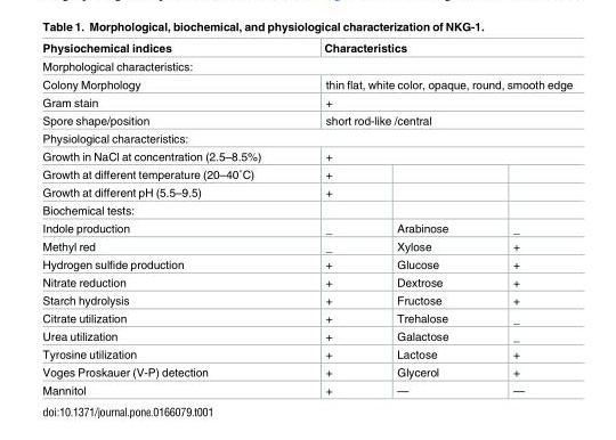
<table><thead><tr><td>Physiochemical indices</td><td colspan="3">Characteristics</td></tr></thead><tbody><tr><td colspan="4">Morphological characteristics:</td></tr><tr><td>Colony Morphology</td><td colspan="3">thin flat, white color, opaque, round, smooth edge</td></tr><tr><td>Gram stain</td><td colspan="3">+</td></tr><tr><td>Spore shape/position</td><td colspan="3">short rod-like /central</td></tr><tr><td colspan="4">Physiological characteristics:</td></tr><tr><td>Growth in NaCl at concentration (2.5–8.5%)</td><td colspan="3">+</td></tr><tr><td>Growth at different temperature (20–40˚C)</td><td>+</td><td></td><td></td></tr><tr><td>Growth at different pH (5.5–9.5)</td><td>+</td><td></td><td></td></tr><tr><td colspan="4">Biochemical tests:</td></tr><tr><td>Indole production</td><td>_</td><td>Arabinose</td><td>_</td></tr><tr><td>Methyl red</td><td>_</td><td>Xylose</td><td>+</td></tr><tr><td>Hydrogen sulfide production</td><td>+</td><td>Glucose</td><td>+</td></tr><tr><td>Nitrate reduction</td><td>+</td><td>Dextrose</td><td>+</td></tr><tr><td>Starch hydrolysis</td><td>+</td><td>Fructose</td><td>+</td></tr><tr><td>Citrate utilization</td><td>+</td><td>Trehalose</td><td>_</td></tr><tr><td>Urea utilization</td><td>+</td><td>Galactose</td><td>_</td></tr><tr><td>Tyrosine utilization</td><td>+</td><td>Lactose</td><td>+</td></tr><tr><td>Voges Proskauer (V-P) detection</td><td>+</td><td>Glycerol</td><td>+</td></tr><tr><td>Mannitol</td><td>+</td><td>—</td><td>—</td></tr></tbody></table>